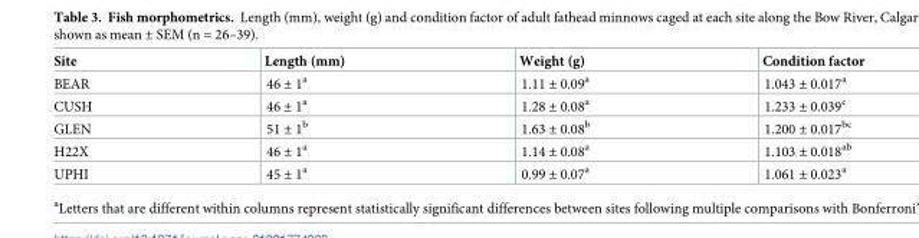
<table><thead><tr><td>Site</td><td>Length (mm)</td><td>Weight (g)</td><td>Condition factor</td></tr></thead><tbody><tr><td>BEAR</td><td>46 ± 1<sup>a</sup></td><td>1.11 ± 0.09<sup>a</sup></td><td>1.043 ± 0.017<sup>a</sup></td></tr><tr><td>CUSH</td><td>46 ± 1<sup>a</sup></td><td>1.28 ± 0.08<sup>a</sup></td><td>1.233 ± 0.039<sup>c</sup></td></tr><tr><td>GLEN</td><td>51 ± 1<sup>b</sup></td><td>1.63 ± 0.08<sup>b</sup></td><td>1.200 ± 0.017<sup>bc</sup></td></tr><tr><td>H22X</td><td>46 ± 1<sup>a</sup></td><td>1.14 ± 0.08<sup>a</sup></td><td>1.103 ± 0.018<sup>ab</sup></td></tr><tr><td>UPHI</td><td>45 ± 1<sup>a</sup></td><td>0.99 ± 0.07<sup>a</sup></td><td>1.061 ± 0.023<sup>a</sup></td></tr></tbody></table>